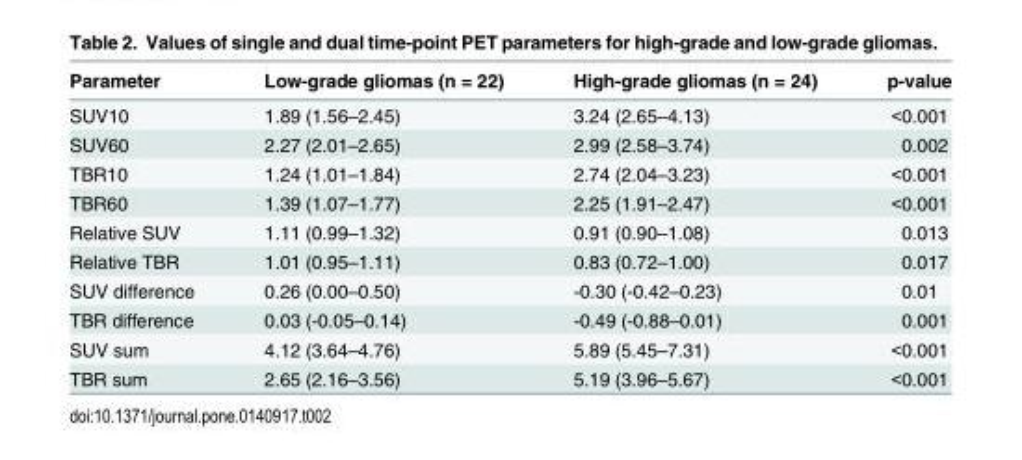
<table><thead><tr><td>Parameter</td><td>Low-grade gliomas (n = 22)</td><td>High-grade gliomas (n = 24)</td><td>p-value</td></tr></thead><tbody><tr><td>SUV10</td><td>1.89 (1.56–2.45)</td><td>3.24 (2.65–4.13)</td><td>&lt;0.001</td></tr><tr><td>SUV60</td><td>2.27 (2.01–2.65)</td><td>2.99 (2.58–3.74)</td><td>0.002</td></tr><tr><td>TBR10</td><td>1.24 (1.01–1.84)</td><td>2.74 (2.04–3.23)</td><td>&lt;0.001</td></tr><tr><td>TBR60</td><td>1.39 (1.07–1.77)</td><td>2.25 (1.91–2.47)</td><td>&lt;0.001</td></tr><tr><td>Relative SUV</td><td>1.11 (0.99–1.32)</td><td>0.91 (0.90–1.08)</td><td>0.013</td></tr><tr><td>Relative TBR</td><td>1.01 (0.95–1.11)</td><td>0.83 (0.72–1.00)</td><td>0.017</td></tr><tr><td>SUV difference</td><td>0.26 (0.00–0.50)</td><td>-0.30 (-0.42–0.23)</td><td>0.01</td></tr><tr><td>TBR difference</td><td>0.03 (-0.05–0.14)</td><td>-0.49 (-0.88–0.01)</td><td>0.001</td></tr><tr><td>SUV sum</td><td>4.12 (3.64–4.76)</td><td>5.89 (5.45–7.31)</td><td>&lt;0.001</td></tr><tr><td>TBR sum</td><td>2.65 (2.16–3.56)</td><td>5.19 (3.96–5.67)</td><td>&lt;0.001</td></tr></tbody></table>